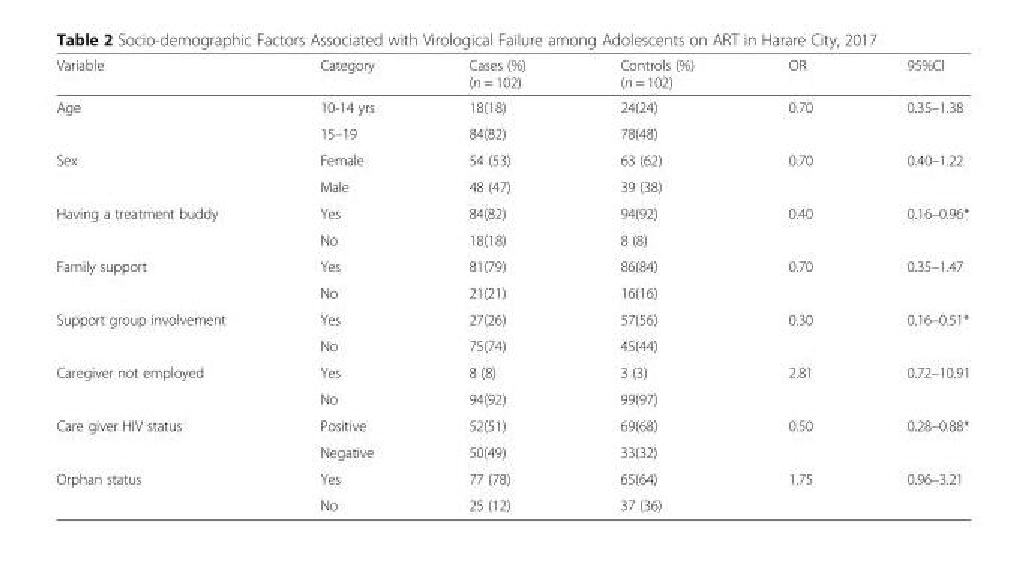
<table><thead><tr><td>Variable</td><td>Category</td><td>Cases (%) (n = 102)</td><td>Controls (%) (n = 102)</td><td>OR</td><td>95%CI</td></tr></thead><tbody><tr><td rowspan="2">Age</td><td>10-14 yrs</td><td>18(18)</td><td>24(24)</td><td>0.70</td><td>0.35–1.38</td></tr><tr><td>15–19</td><td>84(82)</td><td>78(48)</td><td></td><td></td></tr><tr><td rowspan="2">Sex</td><td>Female</td><td>54 (53)</td><td>63 (62)</td><td>0.70</td><td>0.40–1.22</td></tr><tr><td>Male</td><td>48 (47)</td><td>39 (38)</td><td></td><td></td></tr><tr><td rowspan="2">Having a treatment buddy</td><td>Yes</td><td>84(82)</td><td>94(92)</td><td>0.40</td><td>0.16–0.96*</td></tr><tr><td>No</td><td>18(18)</td><td>8 (8)</td><td></td><td></td></tr><tr><td rowspan="2">Family support</td><td>Yes</td><td>81(79)</td><td>86(84)</td><td>0.70</td><td>0.35–1.47</td></tr><tr><td>No</td><td>21(21)</td><td>16(16)</td><td></td><td></td></tr><tr><td rowspan="2">Support group involvement</td><td>Yes</td><td>27(26)</td><td>57(56)</td><td>0.30</td><td>0.16–0.51*</td></tr><tr><td>No</td><td>75(74)</td><td>45(44)</td><td></td><td></td></tr><tr><td rowspan="2">Caregiver not employed</td><td>Yes</td><td>8 (8)</td><td>3 (3)</td><td>2.81</td><td>0.72–10.91</td></tr><tr><td>No</td><td>94(92)</td><td>99(97)</td><td></td><td></td></tr><tr><td rowspan="2">Care giver HIV status</td><td>Positive</td><td>52(51)</td><td>69(68)</td><td>0.50</td><td>0.28–0.88*</td></tr><tr><td>Negative</td><td>50(49)</td><td>33(32)</td><td></td><td></td></tr><tr><td rowspan="2">Orphan status</td><td>Yes</td><td>77 (78)</td><td>65(64)</td><td>1.75</td><td>0.96–3.21</td></tr><tr><td>No</td><td>25 (12)</td><td>37 (36)</td><td></td><td></td></tr></tbody></table>